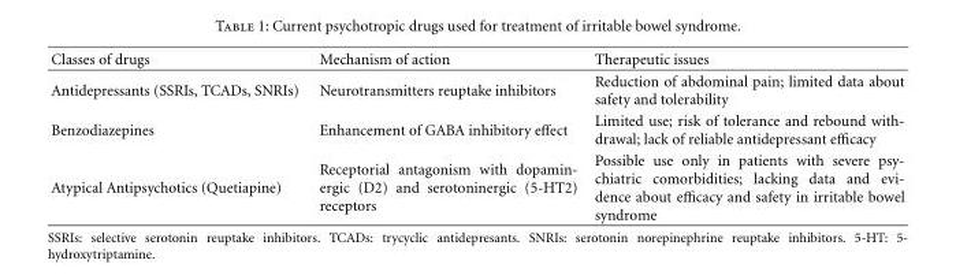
<table><thead><tr><td>Classes of drugs</td><td>Mechanism of action</td><td>Therapeutic issues</td></tr></thead><tbody><tr><td>Antidepressants (SSRIs, TCADs, SNRIs)</td><td>Neurotransmitters reuptake inhibitors</td><td>Reduction of abdominal pain; limited data about safety and tolerability</td></tr><tr><td>Benzodiazepines</td><td>Enhancement of GABA inhibitory effect</td><td>Limited use; risk of tolerance and rebound with- drawal; lack of reliable antidepressant efficacy</td></tr><tr><td>Atypical Antipsychotics (Quetiapine)</td><td>Receptorial antagonism with dopamin- ergic (D2) and serotoninergic (5-HT2) receptors</td><td>Possible use only in patients with severe psy- chiatric comorbidities; lacking data and evi- dence about efficacy and safety in irritable bowel syndrome</td></tr></tbody></table>